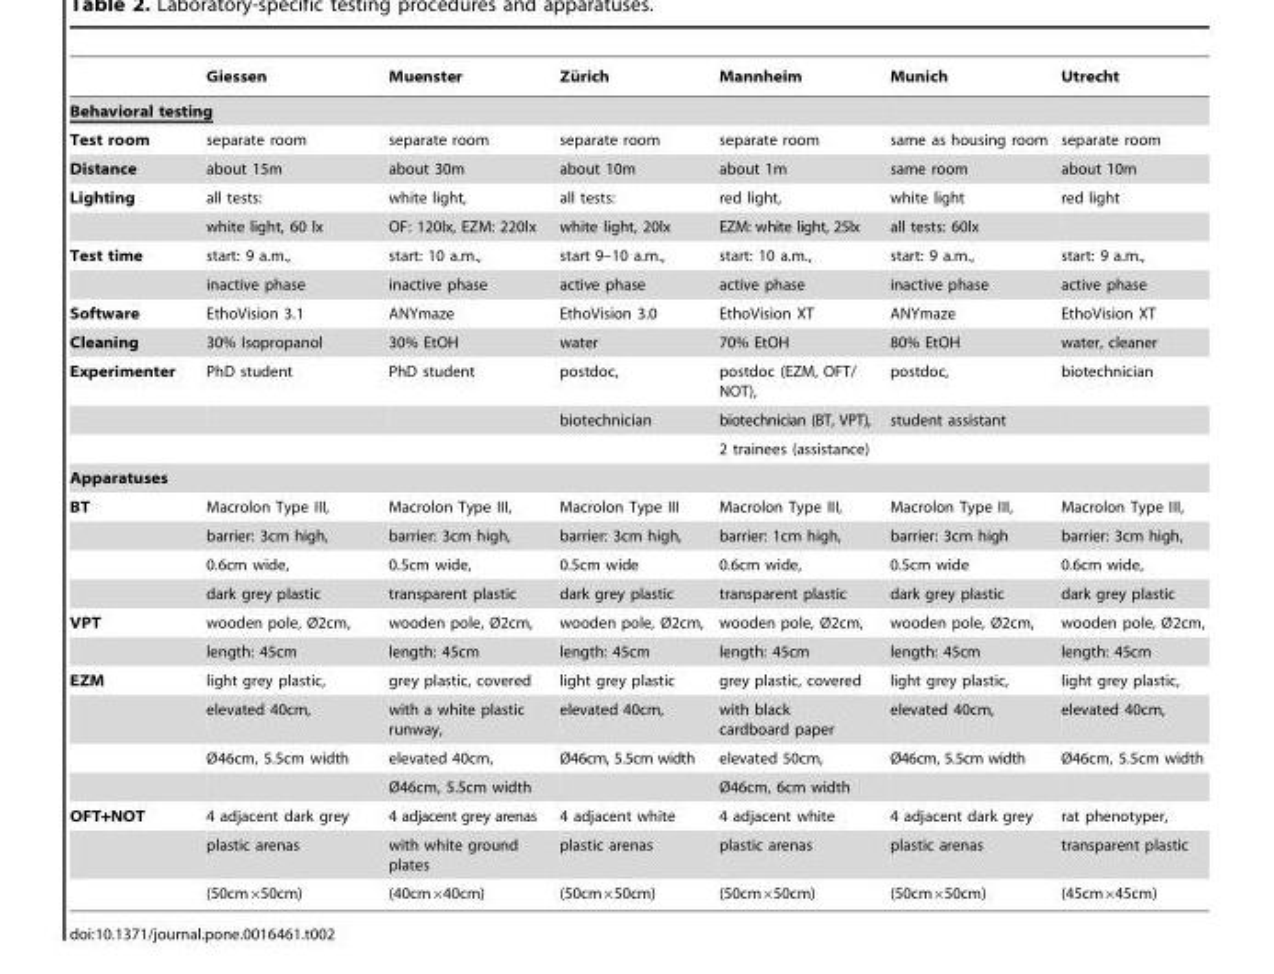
<table><thead><tr><td></td><td>Giessen</td><td>Muenster</td><td>Zu¨ rich</td><td>Mannheim</td><td>Munich</td><td>Utrecht</td></tr></thead><tbody><tr><td colspan="7">Behavioral testing</td></tr><tr><td>Test room</td><td>separate room</td><td>separate room</td><td>separate room</td><td>separate room</td><td>same as housing room</td><td>separate room</td></tr><tr><td>Distance</td><td>about 15m</td><td>about 30m</td><td>about 10m</td><td>about 1m</td><td>same room</td><td>about 10m</td></tr><tr><td rowspan="2">Lighting</td><td>all tests:</td><td>white light,</td><td>all tests:</td><td>red light,</td><td>white light</td><td>red light</td></tr><tr><td>white light, 60 lx</td><td>OF: 120lx, EZM: 220lx</td><td>white light, 20lx</td><td>EZM: white light, 25lx</td><td>all tests: 60lx</td><td></td></tr><tr><td rowspan="2">Test time</td><td>start: 9 a.m.,</td><td>start: 10 a.m.,</td><td>start 9–10 a.m.,</td><td>start: 10 a.m.,</td><td>start: 9 a.m.,</td><td>start: 9 a.m.,</td></tr><tr><td>inactive phase</td><td>inactive phase</td><td>active phase</td><td>active phase</td><td>inactive phase</td><td>active phase</td></tr><tr><td>Software</td><td>EthoVision 3.1</td><td>ANYmaze</td><td>EthoVision 3.0</td><td>EthoVision XT</td><td>ANYmaze</td><td>EthoVision XT</td></tr><tr><td>Cleaning</td><td>30% Isopropanol</td><td>30% EtOH</td><td>water</td><td>70% EtOH</td><td>80% EtOH</td><td>water, cleaner</td></tr><tr><td rowspan="3">Experimenter</td><td>PhD student</td><td>PhD student</td><td>postdoc,</td><td>postdoc (EZM, OFT/ NOT),</td><td>postdoc,</td><td>biotechnician</td></tr><tr><td></td><td></td><td>biotechnician</td><td>biotechnician (BT, VPT),</td><td>student assistant</td><td></td></tr><tr><td></td><td></td><td></td><td>2 trainees (assistance)</td><td></td><td></td></tr><tr><td colspan="7">Apparatuses</td></tr><tr><td rowspan="4">BT</td><td>Macrolon Type III,</td><td>Macrolon Type III,</td><td>Macrolon Type III</td><td>Macrolon Type III,</td><td>Macrolon Type III,</td><td>Macrolon Type III,</td></tr><tr><td>barrier: 3cm high,</td><td>barrier: 3cm high,</td><td>barrier: 3cm high,</td><td>barrier: 1cm high,</td><td>barrier: 3cm high</td><td>barrier: 3cm high,</td></tr><tr><td>0.6cm wide,</td><td>0.5cm wide,</td><td>0.5cm wide</td><td>0.6cm wide,</td><td>0.5cm wide</td><td>0.6cm wide,</td></tr><tr><td>dark grey plastic</td><td>transparent plastic</td><td>dark grey plastic</td><td>transparent plastic</td><td>dark grey plastic</td><td>dark grey plastic</td></tr><tr><td rowspan="2">VPT</td><td>wooden pole, Ø2cm,</td><td>wooden pole, Ø2cm,</td><td>wooden pole, Ø2cm,</td><td>wooden pole, Ø2cm,</td><td>wooden pole, Ø2cm,</td><td>wooden pole, Ø2cm,</td></tr><tr><td>length: 45cm</td><td>length: 45cm</td><td>length: 45cm</td><td>length: 45cm</td><td>length: 45cm</td><td>length: 45cm</td></tr><tr><td rowspan="4">EZM</td><td>light grey plastic,</td><td>grey plastic, covered</td><td>light grey plastic</td><td>grey plastic, covered</td><td>light grey plastic,</td><td>light grey plastic,</td></tr><tr><td>elevated 40cm,</td><td>with a white plastic runway,</td><td>elevated 40cm,</td><td>with black cardboard paper</td><td>elevated 40cm,</td><td>elevated 40cm,</td></tr><tr><td>Ø46cm, 5.5cm width</td><td>elevated 40cm,</td><td>Ø46cm, 5.5cm width</td><td>elevated 50cm,</td><td>Ø46cm, 5.5cm width</td><td>Ø46cm, 5.5cm width</td></tr><tr><td></td><td>Ø46cm, 5.5cm width</td><td></td><td>Ø46cm, 6cm width</td><td></td><td></td></tr><tr><td rowspan="3">OFT+NOT</td><td>4 adjacent dark grey</td><td>4 adjacent grey arenas</td><td>4 adjacent white</td><td>4 adjacent white</td><td>4 adjacent dark grey</td><td>rat phenotyper,</td></tr><tr><td>plastic arenas</td><td>with white ground plates</td><td>plastic arenas</td><td>plastic arenas</td><td>plastic arenas</td><td>transparent plastic</td></tr><tr><td>(50cm×50cm)</td><td>(40cm×40cm)</td><td>(50cm×50cm)</td><td>(50cm×50cm)</td><td>(50cm×50cm)</td><td>(45cm×45cm)</td></tr></tbody></table>